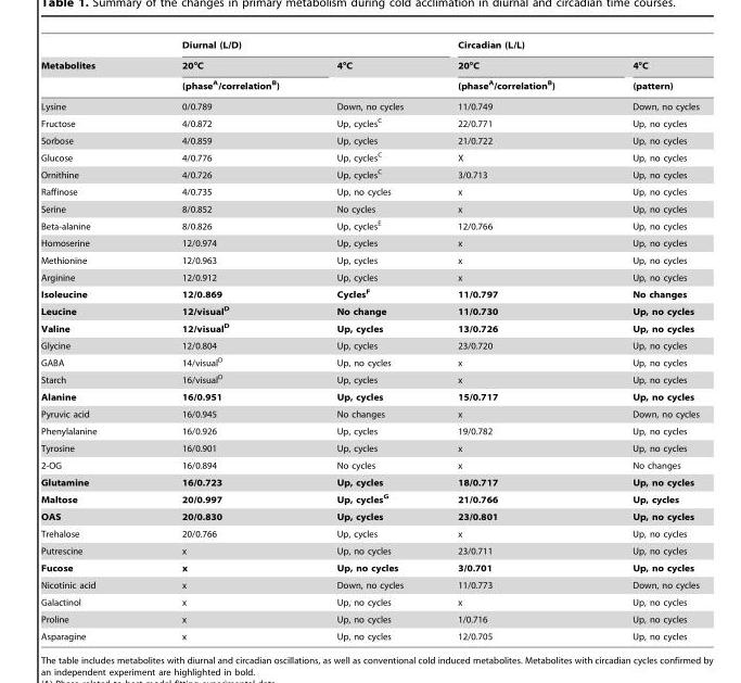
<table><thead><tr><td rowspan="3">Metabolites</td><td colspan="2">Diurnal (L/D)</td><td colspan="2">Circadian (L/L)</td></tr><tr><td rowspan="2">20°C (phase<sup>A</sup>/correlation<sup>B</sup>)</td><td rowspan="2">4°C</td><td rowspan="2">20°C (phase<sup>A</sup>/correlation<sup>B</sup>)</td><td rowspan="2">4°C (pattern)</td></tr><tr></tr></thead><tbody><tr><td>Lysine</td><td>0/0.789</td><td>Down, no cycles</td><td>11/0.749</td><td>Down, no cycles</td></tr><tr><td>Fructose</td><td>4/0.872</td><td>Up, cycles<sup>C</sup></td><td>22/0.771</td><td>Up, no cycles</td></tr><tr><td>Sorbose</td><td>4/0.859</td><td>Up, cycles</td><td>21/0.722</td><td>Up, no cycles</td></tr><tr><td>Glucose</td><td>4/0.776</td><td>Up, cycles<sup>C</sup></td><td>X</td><td>Up, no cycles</td></tr><tr><td>Ornithine</td><td>4/0.726</td><td>Up, cycles<sup>C</sup></td><td>3/0.713</td><td>Up, no cycles</td></tr><tr><td>Raffinose</td><td>4/0.735</td><td>Up, no cycles</td><td>x</td><td>Up, no cycles</td></tr><tr><td>Serine</td><td>8/0.852</td><td>No cycles</td><td>x</td><td>Up, no cycles</td></tr><tr><td>Beta-alanine</td><td>8/0.826</td><td>Up, cycles<sup>E</sup></td><td>12/0.766</td><td>Up, no cycles</td></tr><tr><td>Homoserine</td><td>12/0.974</td><td>Up, cycles</td><td>x</td><td>Up, no cycles</td></tr><tr><td>Methionine</td><td>12/0.963</td><td>Up, cycles</td><td>x</td><td>Up, no cycles</td></tr><tr><td>Arginine</td><td>12/0.912</td><td>Up, cycles</td><td>x</td><td>Up, no cycles</td></tr><tr><td>Isoleucine</td><td>12/0.869</td><td>CyclesF</td><td>11/0.797</td><td>No changes</td></tr><tr><td>Leucine</td><td>12/visualD</td><td>No change</td><td>11/0.730</td><td>Up, no cycles</td></tr><tr><td>Valine</td><td>12/visualD</td><td>Up, cycles</td><td>13/0.726</td><td>Up, no cycles</td></tr><tr><td>Glycine</td><td>12/0.804</td><td>Up, cycles</td><td>23/0.720</td><td>Up, no cycles</td></tr><tr><td>GABA</td><td>14/visual<sup>D</sup></td><td>Up, no cycles</td><td>x</td><td>Up, no cycles</td></tr><tr><td>Starch</td><td>16/visual<sup>D</sup></td><td>Up, cycles</td><td>x</td><td>Up, no cycles</td></tr><tr><td>Alanine</td><td>16/0.951</td><td>Up, cycles</td><td>15/0.717</td><td>Up, no cycles</td></tr><tr><td>Pyruvic acid</td><td>16/0.945</td><td>No changes</td><td>x</td><td>Down, no cycles</td></tr><tr><td>Phenylalanine</td><td>16/0.926</td><td>Up, cycles</td><td>19/0.782</td><td>Up, no cycles</td></tr><tr><td>Tyrosine</td><td>16/0.901</td><td>Up, cycles</td><td>x</td><td>Up, no cycles</td></tr><tr><td>2-OG</td><td>16/0.894</td><td>No cycles</td><td>x</td><td>No changes</td></tr><tr><td>Glutamine</td><td>16/0.723</td><td>Up, cycles</td><td>18/0.717</td><td>Up, no cycles</td></tr><tr><td>Maltose</td><td>20/0.997</td><td>Up, cyclesG</td><td>21/0.766</td><td>Up, cycles</td></tr><tr><td>OAS</td><td>20/0.830</td><td>Up, cycles</td><td>23/0.801</td><td>Up, no cycles</td></tr><tr><td>Trehalose</td><td>20/0.766</td><td>Up, cycles</td><td>x</td><td>Up, no cycles</td></tr><tr><td>Putrescine</td><td>x</td><td>Up, no cycles</td><td>23/0.711</td><td>Up, no cycles</td></tr><tr><td>Fucose</td><td>x</td><td>Up, no cycles</td><td>3/0.701</td><td>Up, no cycles</td></tr><tr><td>Nicotinic acid</td><td>x</td><td>Down, no cycles</td><td>11/0.773</td><td>Down, no cycles</td></tr><tr><td>Galactinol</td><td>x</td><td>Up, no cycles</td><td>x</td><td>Up, no cycles</td></tr><tr><td>Proline</td><td>x</td><td>Up, no cycles</td><td>1/0.716</td><td>Up, no cycles</td></tr><tr><td>Asparagine</td><td>x</td><td>Up, no cycles</td><td>12/0.705</td><td>Up, no cycles</td></tr></tbody></table>